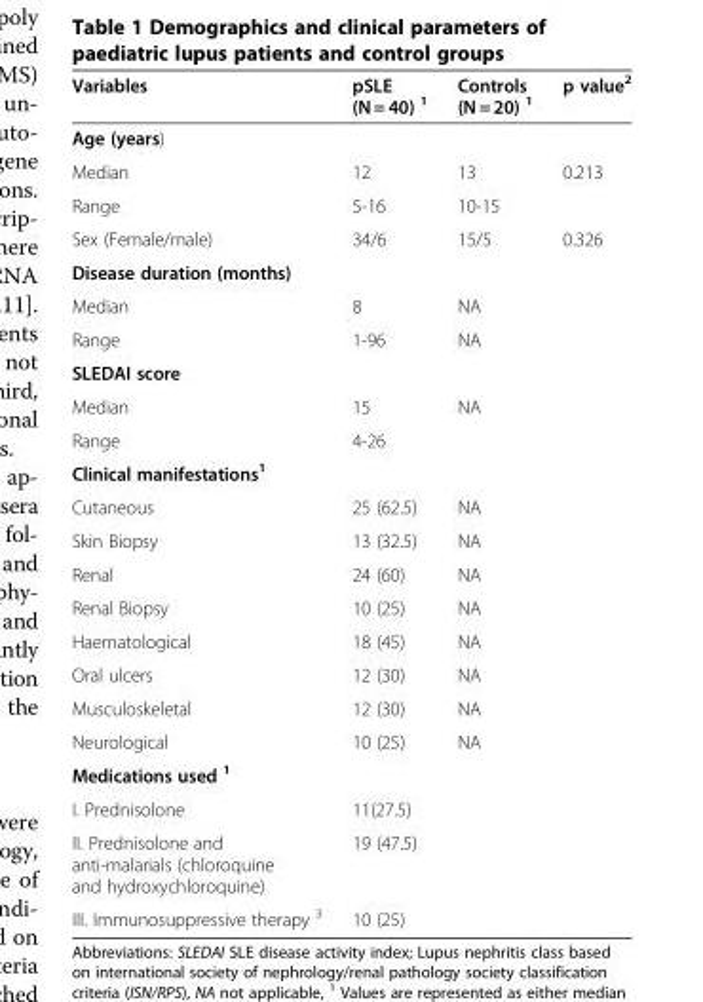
<table><thead><tr><td>Variables</td><td>pSLE (N = 40) <sup>1</sup></td><td>Controls (N = 20) <sup>1</sup></td><td>p value<sup>2</sup></td></tr></thead><tbody><tr><td colspan="4">Age (years)</td></tr><tr><td>Median</td><td>12</td><td>13</td><td>0.213</td></tr><tr><td>Range</td><td>5-16</td><td>10-15</td><td></td></tr><tr><td>Sex (Female/male)</td><td>34/6</td><td>15/5</td><td>0.326</td></tr><tr><td colspan="4">Disease duration (months)</td></tr><tr><td>Median</td><td>8</td><td>NA</td><td></td></tr><tr><td>Range</td><td>1-96</td><td>NA</td><td></td></tr><tr><td colspan="4">SLEDAI score</td></tr><tr><td>Median</td><td>15</td><td>NA</td><td></td></tr><tr><td>Range</td><td>4-26</td><td></td><td></td></tr><tr><td colspan="4">Clinical manifestations<sup>1</sup></td></tr><tr><td>Cutaneous</td><td>25 (62.5)</td><td>NA</td><td></td></tr><tr><td>Skin Biopsy</td><td>13 (32.5)</td><td>NA</td><td></td></tr><tr><td>Renal</td><td>24 (60)</td><td>NA</td><td></td></tr><tr><td>Renal Biopsy</td><td>10 (25)</td><td>NA</td><td></td></tr><tr><td>Haematological</td><td>18 (45)</td><td>NA</td><td></td></tr><tr><td>Oral ulcers</td><td>12 (30)</td><td>NA</td><td></td></tr><tr><td>Musculoskeletal</td><td>12 (30)</td><td>NA</td><td></td></tr><tr><td>Neurological</td><td>10 (25)</td><td>NA</td><td></td></tr><tr><td colspan="4">Medications used <sup>1</sup></td></tr><tr><td>I. Prednisolone</td><td>11(27.5)</td><td></td><td></td></tr><tr><td>II. Prednisolone and anti-malarials (chloroquine and hydroxychloroquine)</td><td>19 (47.5)</td><td></td><td></td></tr><tr><td>III. Immunosuppressive therapy <sup>3</sup></td><td>10 (25)</td><td></td><td></td></tr></tbody></table>